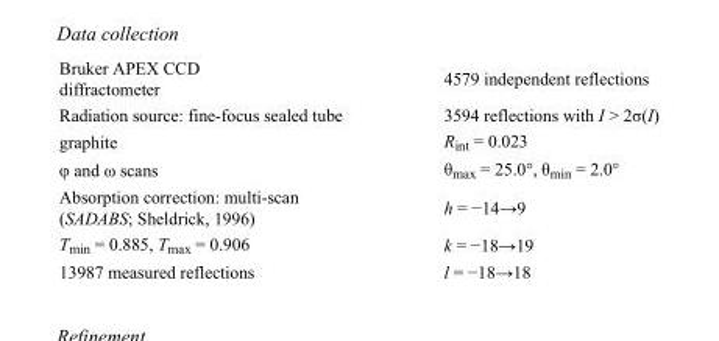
<table><tbody><tr><td>Bruker APEX CCD diffractometer</td><td>4579 independent reflections</td></tr><tr><td>Radiation source: fine-focus sealed tube</td><td>3594 reflections with I &gt; 2σ(I)</td></tr><tr><td>graphite</td><td>R<sub>int</sub> = 0.023</td></tr><tr><td>φ and ω scans</td><td>θ<sub>max</sub> = 25.0°, θ<sub>min</sub> = 2.0°</td></tr><tr><td>Absorption correction: multi-scan (SADABS; Sheldrick, 1996)</td><td>h = −14→9</td></tr><tr><td>T<sub>min</sub> = 0.885, T<sub>max</sub> = 0.906</td><td>k = −18→19</td></tr><tr><td>13987 measured reflections</td><td>l = −18→18</td></tr></tbody></table>